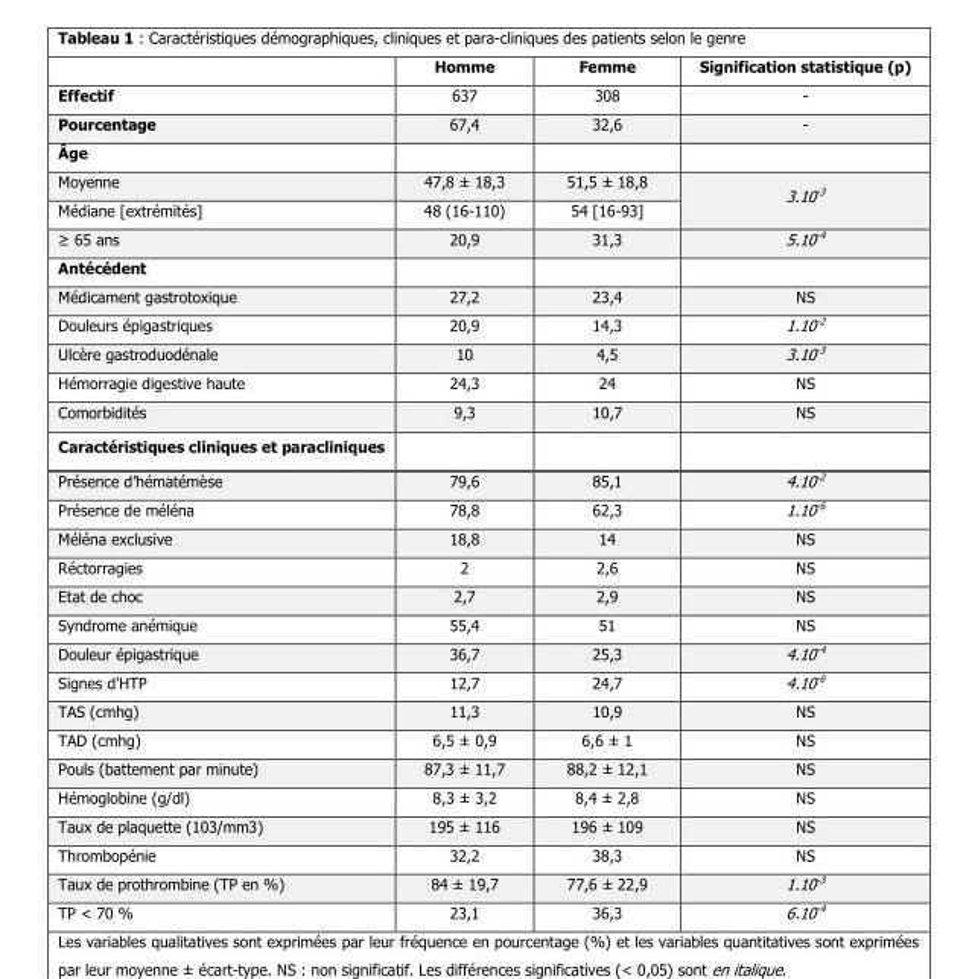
<table><thead><tr><td></td><td>Homme</td><td>Femme</td><td>Signification statistique (p)</td></tr></thead><tbody><tr><td>Effectif</td><td>637</td><td>308</td><td>-</td></tr><tr><td>Pourcentage</td><td>67,4</td><td>32,6</td><td>-</td></tr><tr><td colspan="4">Âge</td></tr><tr><td>Moyenne</td><td>47,8 ± 18,3</td><td>51,5 ± 18,8</td><td rowspan="2">3.10<sup>-3</sup></td></tr><tr><td>Médiane [extrémités]</td><td>48 (16-110)</td><td>54 [16-93]</td></tr><tr><td>≥ 65 ans</td><td>20,9</td><td>31,3</td><td>5.10<sup>-4</sup></td></tr><tr><td colspan="4">Antécédent</td></tr><tr><td>Médicament gastrotoxique</td><td>27,2</td><td>23,4</td><td>NS</td></tr><tr><td>Douleurs épigastriques</td><td>20,9</td><td>14,3</td><td>1.10<sup>-2</sup></td></tr><tr><td>Ulcère gastroduodénale</td><td>10</td><td>4,5</td><td>3.10<sup>-3</sup></td></tr><tr><td>Hémorragie digestive haute</td><td>24,3</td><td>24</td><td>NS</td></tr><tr><td>Comorbidités</td><td>9,3</td><td>10,7</td><td>NS</td></tr><tr><td colspan="4">Caractéristiques cliniques et paracliniques</td></tr><tr><td>Présence d’hématémèse</td><td>79,6</td><td>85,1</td><td>4.10<sup>-2</sup></td></tr><tr><td>Présence de méléna</td><td>78,8</td><td>62,3</td><td>1.10<sup>-6</sup></td></tr><tr><td>Méléna exclusive</td><td>18,8</td><td>14</td><td>NS</td></tr><tr><td>Réctorragies</td><td>2</td><td>2,6</td><td>NS</td></tr><tr><td>Etat de choc</td><td>2,7</td><td>2,9</td><td>NS</td></tr><tr><td>Syndrome anémique</td><td>55,4</td><td>51</td><td>NS</td></tr><tr><td>Douleur épigastrique</td><td>36,7</td><td>25,3</td><td>4.10<sup>-4</sup></td></tr><tr><td>Signes d’HTP</td><td>12,7</td><td>24,7</td><td>4.10<sup>-6</sup></td></tr><tr><td>TAS (cmhg)</td><td>11,3</td><td>10,9</td><td>NS</td></tr><tr><td>TAD (cmhg)</td><td>6,5 ± 0,9</td><td>6,6 ± 1</td><td>NS</td></tr><tr><td>Pouls (battement par minute)</td><td>87,3 ± 11,7</td><td>88,2 ± 12,1</td><td>NS</td></tr><tr><td>Hémoglobine (g/dl)</td><td>8,3 ± 3,2</td><td>8,4 ± 2,8</td><td>NS</td></tr><tr><td>Taux de plaquette (103/mm3)</td><td>195 ± 116</td><td>196 ± 109</td><td>NS</td></tr><tr><td>Thrombopénie</td><td>32,2</td><td>38,3</td><td>NS</td></tr><tr><td>Taux de prothrombine (TP en %)</td><td>84 ± 19,7</td><td>77,6 ± 22,9</td><td>1.10<sup>-3</sup></td></tr><tr><td>TP &lt; 70 %</td><td>23,1</td><td>36,3</td><td>6.10<sup>-4</sup></td></tr></tbody></table>